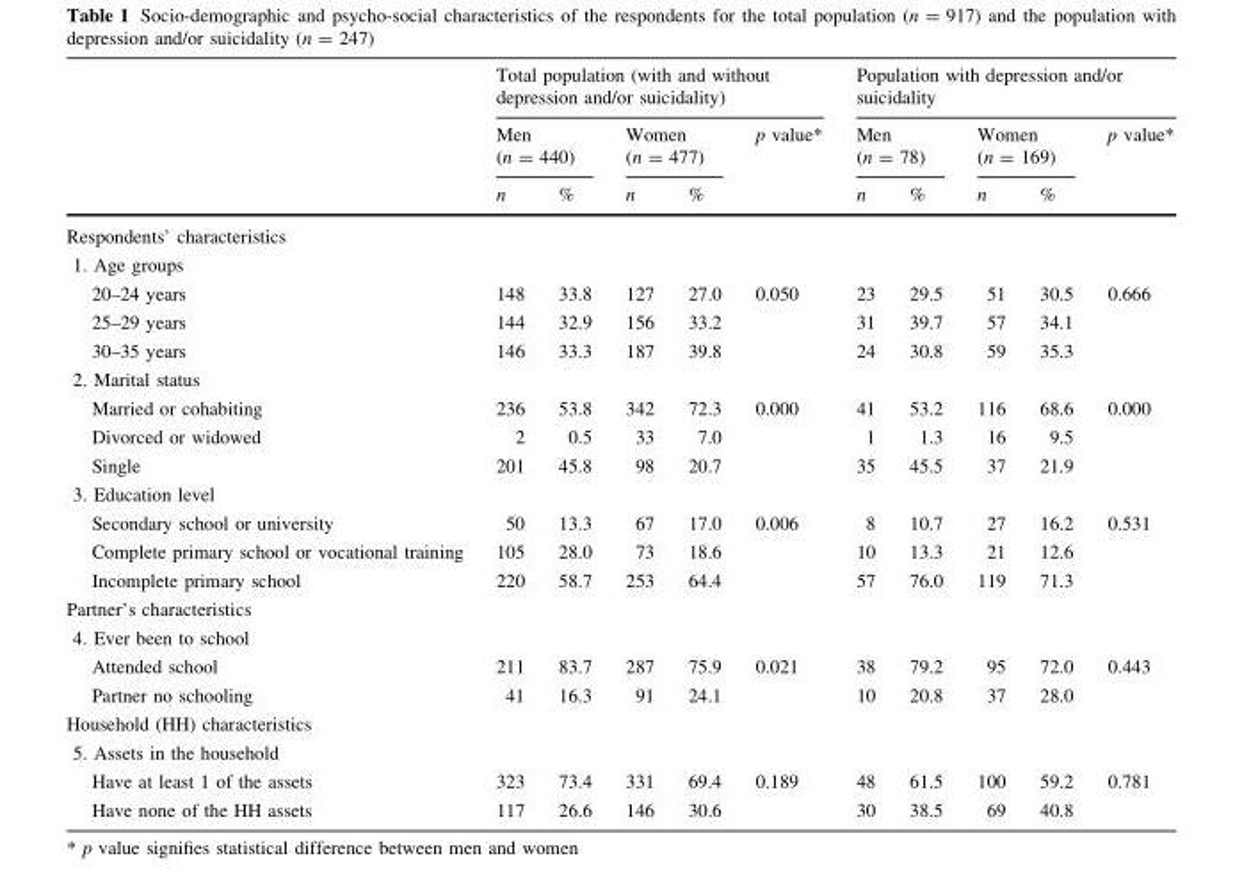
<table><thead><tr><td rowspan="3"></td><td colspan="5">Total population (with and without depression and/or suicidality)</td><td colspan="5">Population with depression and/or suicidality</td></tr><tr><td colspan="2">Men (n = 440)</td><td colspan="2">Women (n = 477)</td><td rowspan="2">p value*</td><td colspan="2">Men (n = 78)</td><td colspan="2">Women (n = 169)</td><td rowspan="2">p value*</td></tr><tr><td>n</td><td>%</td><td>n</td><td>%</td><td>n</td><td>%</td><td>n</td><td>%</td></tr></thead><tbody><tr><td colspan="11">Respondents’ characteristics</td></tr><tr><td colspan="11">1. Age groups</td></tr><tr><td>20–24 years</td><td>148</td><td>33.8</td><td>127</td><td>27.0</td><td rowspan="3">0.050</td><td>23</td><td>29.5</td><td>51</td><td>30.5</td><td rowspan="3">0.666</td></tr><tr><td>25–29 years</td><td>144</td><td>32.9</td><td>156</td><td>33.2</td><td>31</td><td>39.7</td><td>57</td><td>34.1</td></tr><tr><td>30–35 years</td><td>146</td><td>33.3</td><td>187</td><td>39.8</td><td>24</td><td>30.8</td><td>59</td><td>35.3</td></tr><tr><td colspan="11">2. Marital status</td></tr><tr><td>Married or cohabiting</td><td>236</td><td>53.8</td><td>342</td><td>72.3</td><td rowspan="3">0.000</td><td>41</td><td>53.2</td><td>116</td><td>68.6</td><td rowspan="3">0.000</td></tr><tr><td>Divorced or widowed</td><td>2</td><td>0.5</td><td>33</td><td>7.0</td><td>1</td><td>1.3</td><td>16</td><td>9.5</td></tr><tr><td>Single</td><td>201</td><td>45.8</td><td>98</td><td>20.7</td><td>35</td><td>45.5</td><td>37</td><td>21.9</td></tr><tr><td colspan="11">3. Education level</td></tr><tr><td>Secondary school or university</td><td>50</td><td>13.3</td><td>67</td><td>17.0</td><td rowspan="3">0.006</td><td>8</td><td>10.7</td><td>27</td><td>16.2</td><td rowspan="3">0.531</td></tr><tr><td>Complete primary school or vocational training</td><td>105</td><td>28.0</td><td>73</td><td>18.6</td><td>10</td><td>13.3</td><td>21</td><td>12.6</td></tr><tr><td>Incomplete primary school</td><td>220</td><td>58.7</td><td>253</td><td>64.4</td><td>57</td><td>76.0</td><td>119</td><td>71.3</td></tr><tr><td colspan="11">Partner’s characteristics</td></tr><tr><td colspan="11">4. Ever been to school</td></tr><tr><td>Attended school</td><td>211</td><td>83.7</td><td>287</td><td>75.9</td><td rowspan="2">0.021</td><td>38</td><td>79.2</td><td>95</td><td>72.0</td><td rowspan="2">0.443</td></tr><tr><td>Partner no schooling</td><td>41</td><td>16.3</td><td>91</td><td>24.1</td><td>10</td><td>20.8</td><td>37</td><td>28.0</td></tr><tr><td colspan="11">Household (HH) characteristics</td></tr><tr><td colspan="11">5. Assets in the household</td></tr><tr><td>Have at least 1 of the assets</td><td>323</td><td>73.4</td><td>331</td><td>69.4</td><td rowspan="2">0.189</td><td>48</td><td>61.5</td><td>100</td><td>59.2</td><td rowspan="2">0.781</td></tr><tr><td>Have none of the HH assets</td><td>117</td><td>26.6</td><td>146</td><td>30.6</td><td>30</td><td>38.5</td><td>69</td><td>40.8</td></tr></tbody></table>